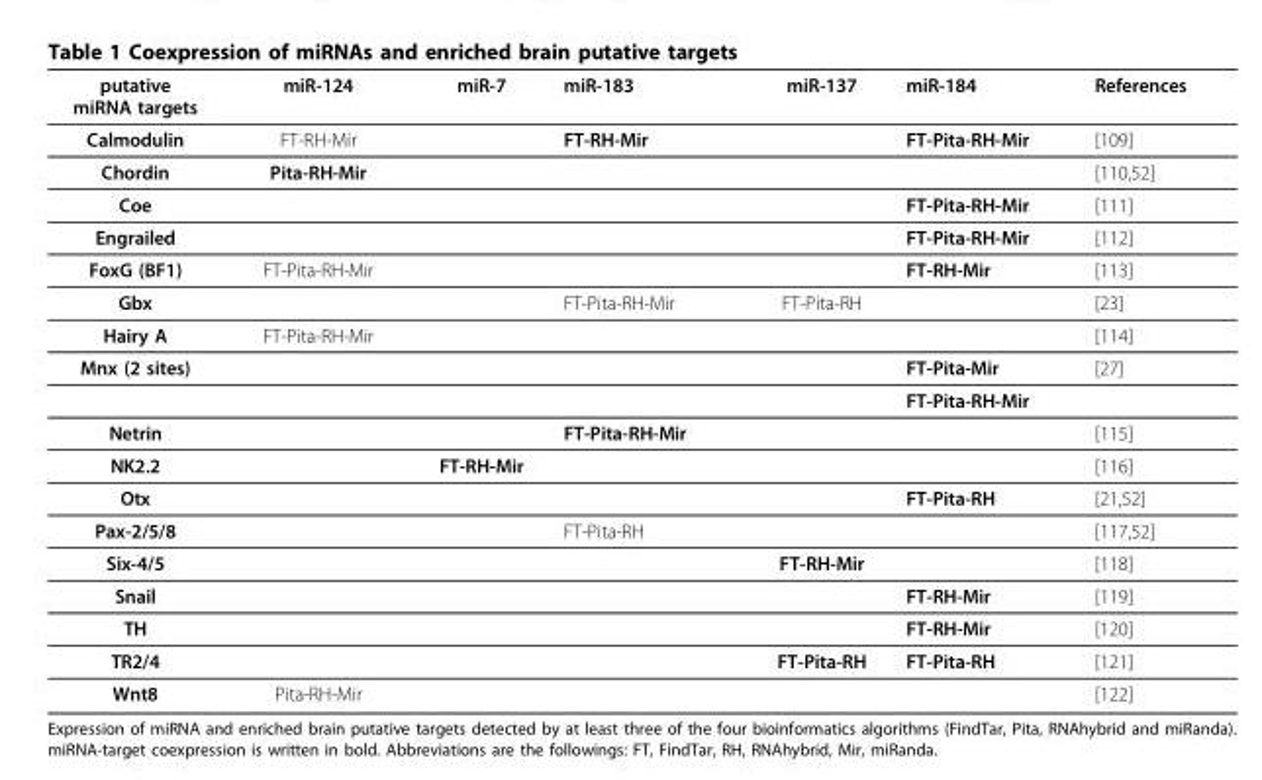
<table><thead><tr><td>putative miRNA targets</td><td>miR-124</td><td>miR-7</td><td>miR-183</td><td>miR-137</td><td>miR-184</td><td>References</td></tr></thead><tbody><tr><td>Calmodulin</td><td>FT-RH-Mir</td><td></td><td>FT-RH-Mir</td><td></td><td>FT-Pita-RH-Mir</td><td>[109]</td></tr><tr><td>Chordin</td><td>Pita-RH-Mir</td><td></td><td></td><td></td><td></td><td>[110,52]</td></tr><tr><td>Coe</td><td></td><td></td><td></td><td></td><td>FT-Pita-RH-Mir</td><td>[111]</td></tr><tr><td>Engrailed</td><td></td><td></td><td></td><td></td><td>FT-Pita-RH-Mir</td><td>[112]</td></tr><tr><td>FoxG (BF1)</td><td>FT-Pita-RH-Mir</td><td></td><td></td><td></td><td>FT-RH-Mir</td><td>[113]</td></tr><tr><td>Gbx</td><td></td><td></td><td>FT-Pita-RH-Mir</td><td>FT-Pita-RH</td><td></td><td>[23]</td></tr><tr><td>Hairy A</td><td>FT-Pita-RH-Mir</td><td></td><td></td><td></td><td></td><td>[114]</td></tr><tr><td rowspan="2">Mnx (2 sites)</td><td></td><td></td><td></td><td></td><td>FT-Pita-Mir</td><td>[27]</td></tr><tr><td></td><td></td><td></td><td></td><td>FT-Pita-RH-Mir</td><td></td></tr><tr><td>Netrin</td><td></td><td></td><td>FT-Pita-RH-Mir</td><td></td><td></td><td>[115]</td></tr><tr><td>NK2.2</td><td></td><td>FT-RH-Mir</td><td></td><td></td><td></td><td>[116]</td></tr><tr><td>Otx</td><td></td><td></td><td></td><td></td><td>FT-Pita-RH</td><td>[21,52]</td></tr><tr><td>Pax-2/5/8</td><td></td><td></td><td>FT-Pita-RH</td><td></td><td></td><td>[117,52]</td></tr><tr><td>Six-4/5</td><td></td><td></td><td></td><td>FT-RH-Mir</td><td></td><td>[118]</td></tr><tr><td>Snail</td><td></td><td></td><td></td><td></td><td>FT-RH-Mir</td><td>[119]</td></tr><tr><td>TH</td><td></td><td></td><td></td><td></td><td>FT-RH-Mir</td><td>[120]</td></tr><tr><td>TR2/4</td><td></td><td></td><td></td><td>FT-Pita-RH</td><td>FT-Pita-RH</td><td>[121]</td></tr><tr><td>Wnt8</td><td>Pita-RH-Mir</td><td></td><td></td><td></td><td></td><td>[122]</td></tr></tbody></table>